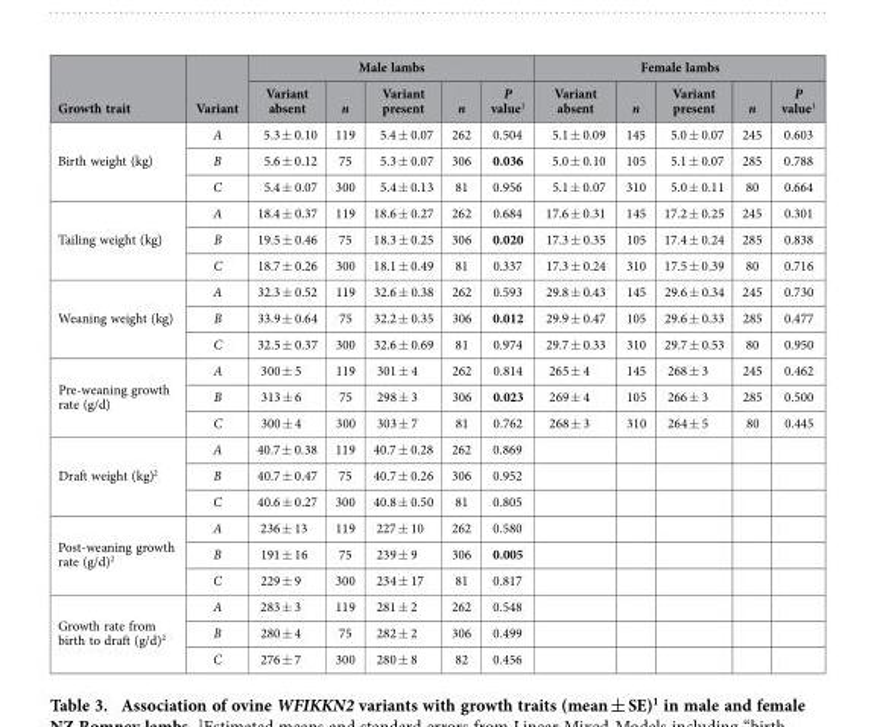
<table><thead><tr><td rowspan="2">Growth trait</td><td rowspan="2">Variant</td><td colspan="5">Male lambs</td><td colspan="5">Female lambs</td></tr><tr><td>Variant absent</td><td>n</td><td>Variant present</td><td>n</td><td>P value<sup>1</sup></td><td>Variant absent</td><td>n</td><td>Variant present</td><td>n</td><td>P value<sup>1</sup></td></tr></thead><tbody><tr><td rowspan="3">Birth weight (kg)</td><td>A</td><td>5.3 ± 0.10</td><td>119</td><td>5.4 ± 0.07</td><td>262</td><td>0.504</td><td>5.1 ± 0.09</td><td>145</td><td>5.0 ± 0.07</td><td>245</td><td>0.603</td></tr><tr><td>B</td><td>5.6 ± 0.12</td><td>75</td><td>5.3 ± 0.07</td><td>306</td><td>0.036</td><td>5.0 ± 0.10</td><td>105</td><td>5.1 ± 0.07</td><td>285</td><td>0.788</td></tr><tr><td>C</td><td>5.4 ± 0.07</td><td>300</td><td>5.4 ± 0.13</td><td>81</td><td>0.956</td><td>5.1 ± 0.07</td><td>310</td><td>5.0 ± 0.11</td><td>80</td><td>0.664</td></tr><tr><td rowspan="3">Tailing weight (kg)</td><td>A</td><td>18.4 ± 0.37</td><td>119</td><td>18.6 ± 0.27</td><td>262</td><td>0.684</td><td>17.6 ± 0.31</td><td>145</td><td>17.2 ± 0.25</td><td>245</td><td>0.301</td></tr><tr><td>B</td><td>19.5 ± 0.46</td><td>75</td><td>18.3 ± 0.25</td><td>306</td><td>0.020</td><td>17.3 ± 0.35</td><td>105</td><td>17.4 ± 0.24</td><td>285</td><td>0.838</td></tr><tr><td>C</td><td>18.7 ± 0.26</td><td>300</td><td>18.1 ± 0.49</td><td>81</td><td>0.337</td><td>17.3 ± 0.24</td><td>310</td><td>17.5 ± 0.39</td><td>80</td><td>0.716</td></tr><tr><td rowspan="3">Weaning weight (kg)</td><td>A</td><td>32.3 ± 0.52</td><td>119</td><td>32.6 ± 0.38</td><td>262</td><td>0.593</td><td>29.8 ± 0.43</td><td>145</td><td>29.6 ± 0.34</td><td>245</td><td>0.730</td></tr><tr><td>B</td><td>33.9 ± 0.64</td><td>75</td><td>32.2 ± 0.35</td><td>306</td><td>0.012</td><td>29.9 ± 0.47</td><td>105</td><td>29.6 ± 0.33</td><td>285</td><td>0.477</td></tr><tr><td>C</td><td>32.5 ± 0.37</td><td>300</td><td>32.6 ± 0.69</td><td>81</td><td>0.974</td><td>29.7 ± 0.33</td><td>310</td><td>29.7 ± 0.53</td><td>80</td><td>0.950</td></tr><tr><td rowspan="3">Pre-weaning growth rate (g/d)</td><td>A</td><td>300 ± 5</td><td>119</td><td>301 ± 4</td><td>262</td><td>0.814</td><td>265 ± 4</td><td>145</td><td>268 ± 3</td><td>245</td><td>0.462</td></tr><tr><td>B</td><td>313 ± 6</td><td>75</td><td>298 ± 3</td><td>306</td><td>0.023</td><td>269 ± 4</td><td>105</td><td>266 ± 3</td><td>285</td><td>0.500</td></tr><tr><td>C</td><td>300 ± 4</td><td>300</td><td>303 ± 7</td><td>81</td><td>0.762</td><td>268 ± 3</td><td>310</td><td>264 ± 5</td><td>80</td><td>0.445</td></tr><tr><td rowspan="3">Draft weight (kg)<sup>2</sup></td><td>A</td><td>40.7 ± 0.38</td><td>119</td><td>40.7 ± 0.28</td><td>262</td><td>0.869</td><td></td><td></td><td></td><td></td><td></td></tr><tr><td>B</td><td>40.7 ± 0.47</td><td>75</td><td>40.7 ± 0.26</td><td>306</td><td>0.952</td><td></td><td></td><td></td><td></td><td></td></tr><tr><td>C</td><td>40.6 ± 0.27</td><td>300</td><td>40.8 ± 0.50</td><td>81</td><td>0.805</td><td></td><td></td><td></td><td></td><td></td></tr><tr><td rowspan="3">Post-weaning growth rate (g/d)<sup>2</sup></td><td>A</td><td>236 ± 13</td><td>119</td><td>227 ± 10</td><td>262</td><td>0.580</td><td></td><td></td><td></td><td></td><td></td></tr><tr><td>B</td><td>191 ± 16</td><td>75</td><td>239 ± 9</td><td>306</td><td>0.005</td><td></td><td></td><td></td><td></td><td></td></tr><tr><td>C</td><td>229 ± 9</td><td>300</td><td>234 ± 17</td><td>81</td><td>0.817</td><td></td><td></td><td></td><td></td><td></td></tr><tr><td rowspan="3">Growth rate from birth to draft (g/d)<sup>2</sup></td><td>A</td><td>283 ± 3</td><td>119</td><td>281 ± 2</td><td>262</td><td>0.548</td><td></td><td></td><td></td><td></td><td></td></tr><tr><td>B</td><td>280 ± 4</td><td>75</td><td>282 ± 2</td><td>306</td><td>0.499</td><td></td><td></td><td></td><td></td><td></td></tr><tr><td>C</td><td>276 ± 7</td><td>300</td><td>280 ± 8</td><td>82</td><td>0.456</td><td></td><td></td><td></td><td></td><td></td></tr></tbody></table>